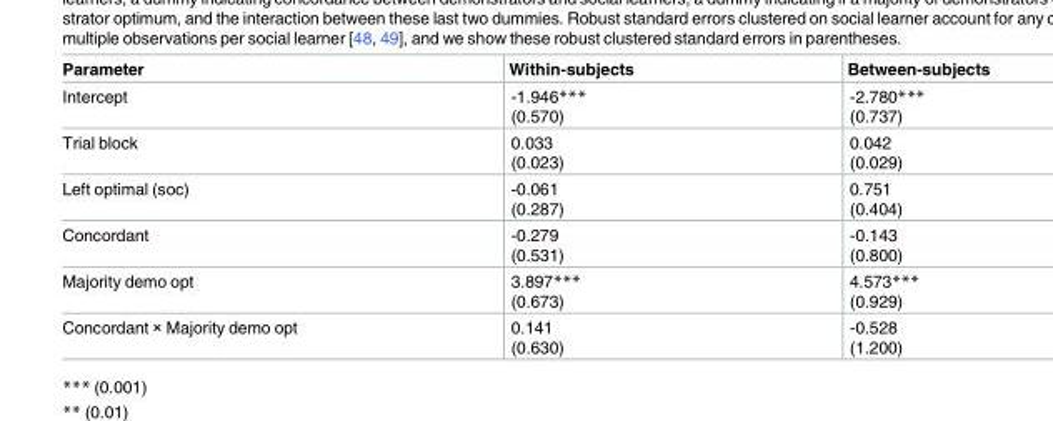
<table><thead><tr><td>Parameter</td><td>Within-subjects</td><td>Between-subjects</td></tr></thead><tbody><tr><td>Intercept</td><td>-1.946*** (0.570)</td><td>-2.780*** (0.737)</td></tr><tr><td>Trial block</td><td>0.033 (0.023)</td><td>0.042 (0.029)</td></tr><tr><td>Left optimal (soc)</td><td>-0.061 (0.287)</td><td>0.751 (0.404)</td></tr><tr><td>Concordant</td><td>-0.279 (0.531)</td><td>-0.143 (0.800)</td></tr><tr><td>Majority demo opt</td><td>3.897*** (0.673)</td><td>4.573*** (0.929)</td></tr><tr><td>Concordant × Majority demo opt</td><td>0.141 (0.630)</td><td>-0.528 (1.200)</td></tr></tbody></table>